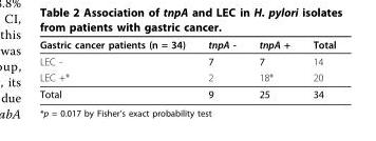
<table><thead><tr><td>Gastric cancer patients (n = 34)</td><td>tnpA -</td><td>tnpA +</td><td>Total</td></tr></thead><tbody><tr><td>LEC -</td><td>7</td><td>7</td><td>14</td></tr><tr><td>LEC +*</td><td>2</td><td>18*</td><td>20</td></tr><tr><td>Total</td><td>9</td><td>25</td><td>34</td></tr></tbody></table>